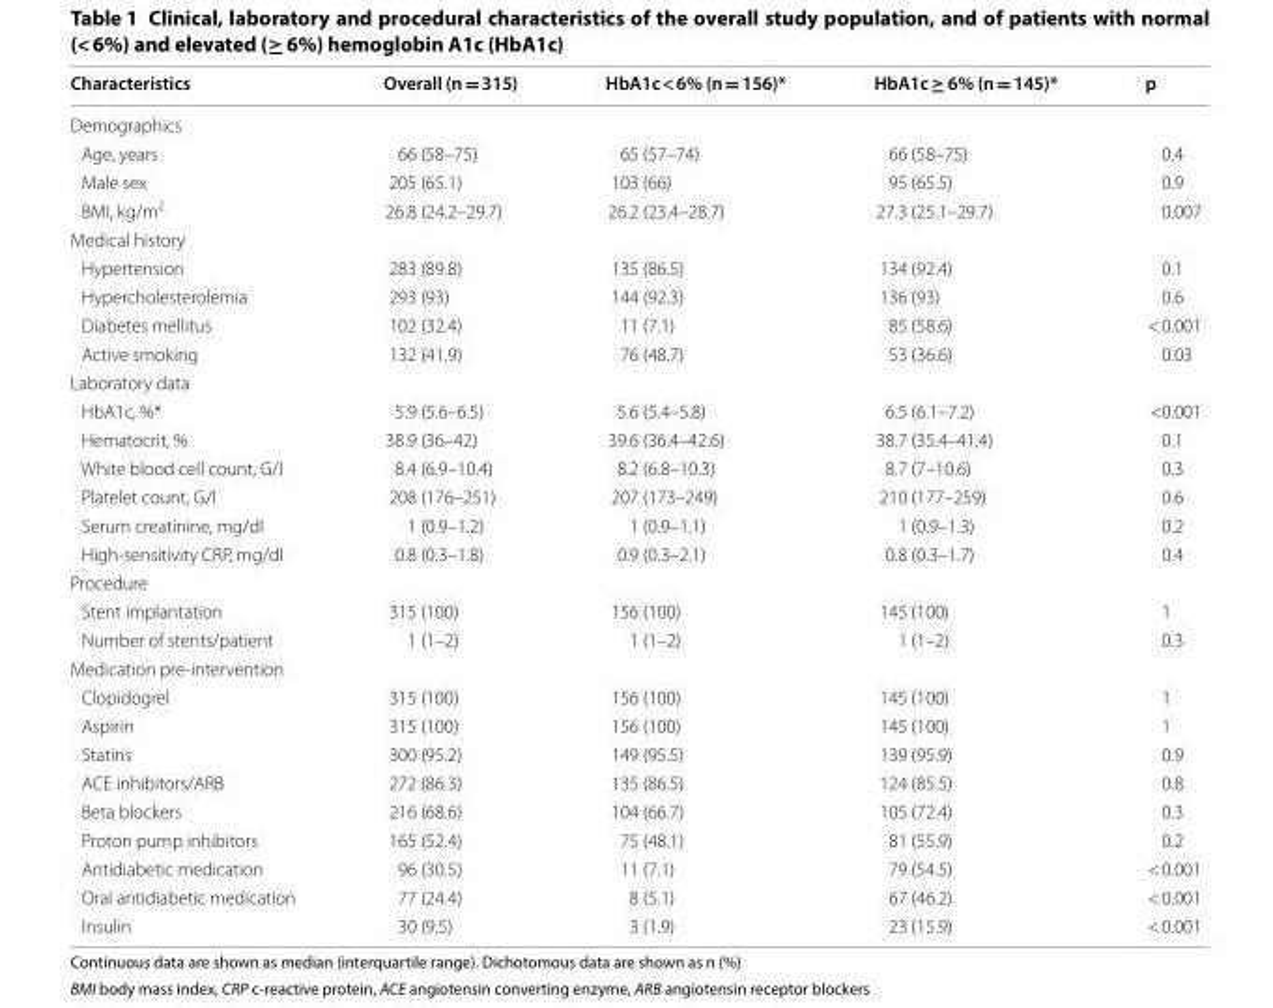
<table><thead><tr><td>Characteristics</td><td>Overall (n = 315)</td><td>HbA1c &lt; 6% (n = 156)*</td><td>HbA1c ≥ 6% (n = 145)*</td><td>p</td></tr></thead><tbody><tr><td colspan="5">Demographics</td></tr><tr><td>Age, years</td><td>66 (58–75)</td><td>65 (57–74)</td><td>66 (58–75)</td><td>0.4</td></tr><tr><td>Male sex</td><td>205 (65.1)</td><td>103 (66)</td><td>95 (65.5)</td><td>0.9</td></tr><tr><td>BMI, kg/m<sup>2</sup></td><td>26.8 (24.2–29.7)</td><td>26.2 (23.4–28.7)</td><td>27.3 (25.1–29.7)</td><td>0.007</td></tr><tr><td colspan="5">Medical history</td></tr><tr><td>Hypertension</td><td>283 (89.8)</td><td>135 (86.5)</td><td>134 (92.4)</td><td>0.1</td></tr><tr><td>Hypercholesterolemia</td><td>293 (93)</td><td>144 (92.3)</td><td>136 (93)</td><td>0.6</td></tr><tr><td>Diabetes mellitus</td><td>102 (32.4)</td><td>11 (7.1)</td><td>85 (58.6)</td><td>&lt; 0.001</td></tr><tr><td>Active smoking</td><td>132 (41.9)</td><td>76 (48.7)</td><td>53 (36.6)</td><td>0.03</td></tr><tr><td colspan="5">Laboratory data</td></tr><tr><td>HbA1c, %*</td><td>5.9 (5.6–6.5)</td><td>5.6 (5.4–5.8)</td><td>6.5 (6.1–7.2)</td><td>&lt;0.001</td></tr><tr><td>Hematocrit, %</td><td>38.9 (36–42)</td><td>39.6 (36.4–42.6)</td><td>38.7 (35.4–41.4)</td><td>0.1</td></tr><tr><td>White blood cell count, G/l</td><td>8.4 (6.9–10.4)</td><td>8.2 (6.8–10.3)</td><td>8.7 (7–10.6)</td><td>0.3</td></tr><tr><td>Platelet count, G/l</td><td>208 (176–251)</td><td>207 (173–249)</td><td>210 (177–259)</td><td>0.6</td></tr><tr><td>Serum creatinine, mg/dl</td><td>1 (0.9–1.2)</td><td>1 (0.9–1.1)</td><td>1 (0.9–1.3)</td><td>0.2</td></tr><tr><td>High-sensitivity CRP, mg/dl</td><td>0.8 (0.3–1.8)</td><td>0.9 (0.3–2.1)</td><td>0.8 (0.3–1.7)</td><td>0.4</td></tr><tr><td colspan="5">Procedure</td></tr><tr><td>Stent implantation</td><td>315 (100)</td><td>156 (100)</td><td>145 (100)</td><td>1</td></tr><tr><td>Number of stents/patient</td><td>1 (1–2)</td><td>1 (1–2)</td><td>1 (1–2)</td><td>0.3</td></tr><tr><td colspan="5">Medication pre-intervention</td></tr><tr><td>Clopidogrel</td><td>315 (100)</td><td>156 (100)</td><td>145 (100)</td><td>1</td></tr><tr><td>Aspirin</td><td>315 (100)</td><td>156 (100)</td><td>145 (100)</td><td>1</td></tr><tr><td>Statins</td><td>300 (95.2)</td><td>149 (95.5)</td><td>139 (95.9)</td><td>0.9</td></tr><tr><td>ACE inhibitors/ARB</td><td>272 (86.3)</td><td>135 (86.5)</td><td>124 (85.5)</td><td>0.8</td></tr><tr><td>Beta blockers</td><td>216 (68.6)</td><td>104 (66.7)</td><td>105 (72.4)</td><td>0.3</td></tr><tr><td>Proton pump inhibitors</td><td>165 (52.4)</td><td>75 (48.1)</td><td>81 (55.9)</td><td>0.2</td></tr><tr><td>Antidiabetic medication</td><td>96 (30.5)</td><td>11 (7.1)</td><td>79 (54.5)</td><td>&lt; 0.001</td></tr><tr><td>Oral antidiabetic medication</td><td>77 (24.4)</td><td>8 (5.1)</td><td>67 (46.2)</td><td>&lt; 0.001</td></tr><tr><td>Insulin</td><td>30 (9.5)</td><td>3 (1.9)</td><td>23 (15.9)</td><td>&lt; 0.001</td></tr></tbody></table>